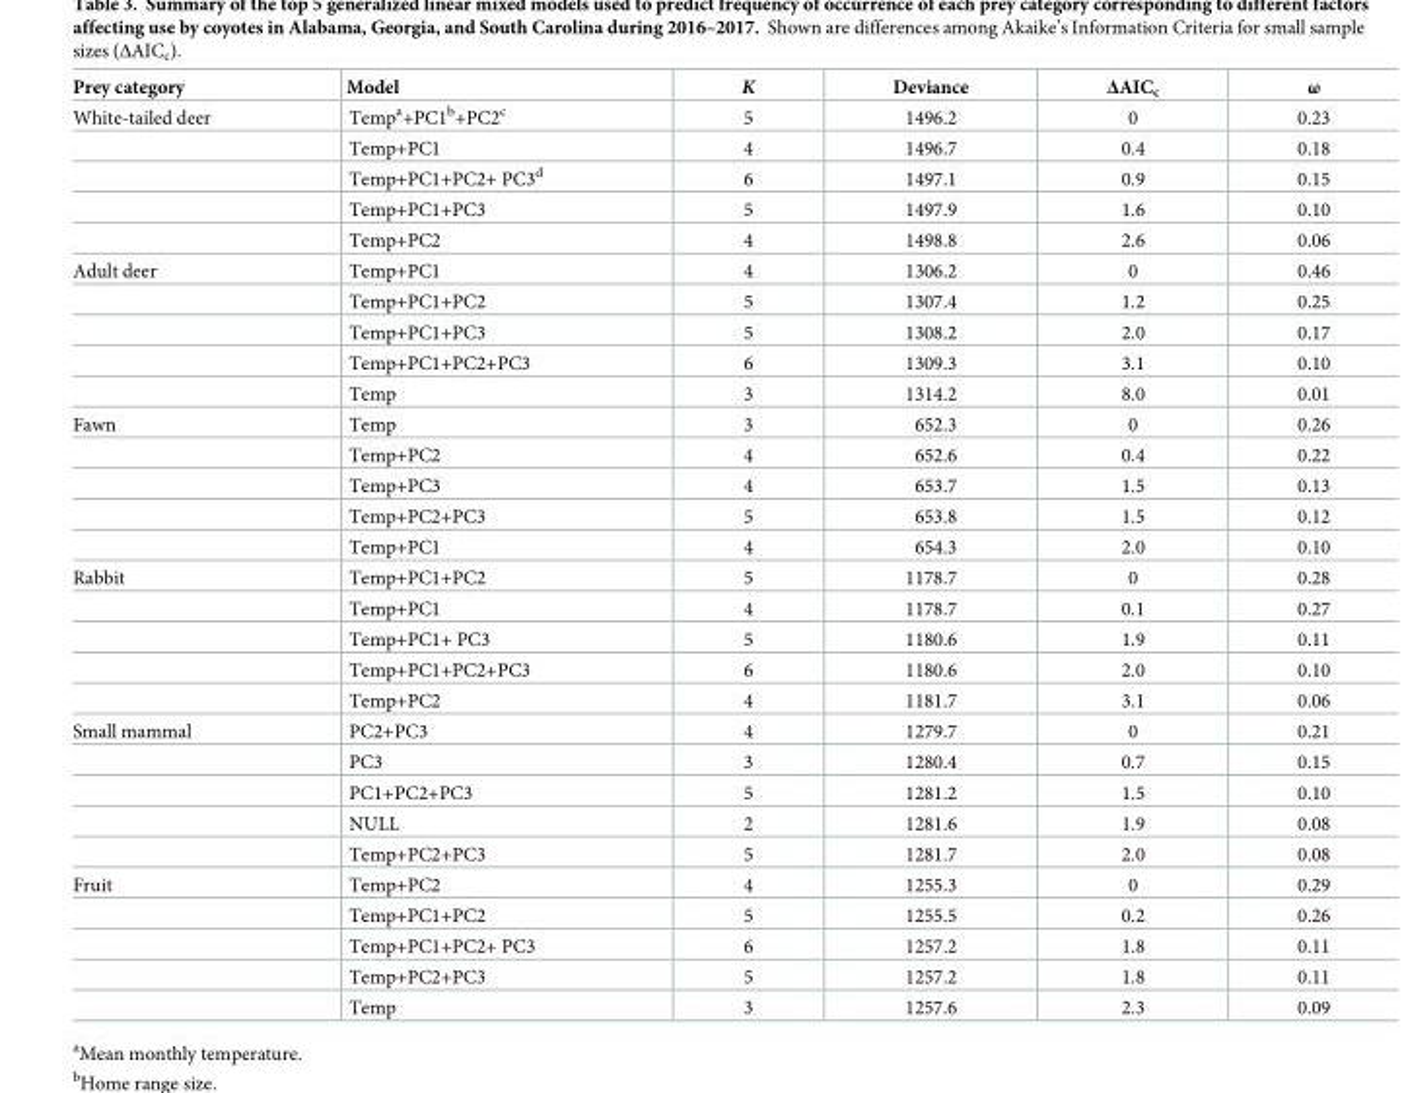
<table><thead><tr><td>Prey category</td><td>Model</td><td>K</td><td>Deviance</td><td>ΔAIC<sub>c</sub></td><td>ω</td></tr></thead><tbody><tr><td rowspan="5">White-tailed deer</td><td>Temp<sup>a</sup>+PC1<sup>b</sup>+PC2<sup>c</sup></td><td>5</td><td>1496.2</td><td>0</td><td>0.23</td></tr><tr><td>Temp+PC1</td><td>4</td><td>1496.7</td><td>0.4</td><td>0.18</td></tr><tr><td>Temp+PC1+PC2+ PC3<sup>d</sup></td><td>6</td><td>1497.1</td><td>0.9</td><td>0.15</td></tr><tr><td>Temp+PC1+PC3</td><td>5</td><td>1497.9</td><td>1.6</td><td>0.10</td></tr><tr><td>Temp+PC2</td><td>4</td><td>1498.8</td><td>2.6</td><td>0.06</td></tr><tr><td rowspan="5">Adult deer</td><td>Temp+PC1</td><td>4</td><td>1306.2</td><td>0</td><td>0.46</td></tr><tr><td>Temp+PC1+PC2</td><td>5</td><td>1307.4</td><td>1.2</td><td>0.25</td></tr><tr><td>Temp+PC1+PC3</td><td>5</td><td>1308.2</td><td>2.0</td><td>0.17</td></tr><tr><td>Temp+PC1+PC2+PC3</td><td>6</td><td>1309.3</td><td>3.1</td><td>0.10</td></tr><tr><td>Temp</td><td>3</td><td>1314.2</td><td>8.0</td><td>0.01</td></tr><tr><td rowspan="5">Fawn</td><td>Temp</td><td>3</td><td>652.3</td><td>0</td><td>0.26</td></tr><tr><td>Temp+PC2</td><td>4</td><td>652.6</td><td>0.4</td><td>0.22</td></tr><tr><td>Temp+PC3</td><td>4</td><td>653.7</td><td>1.5</td><td>0.13</td></tr><tr><td>Temp+PC2+PC3</td><td>5</td><td>653.8</td><td>1.5</td><td>0.12</td></tr><tr><td>Temp+PC1</td><td>4</td><td>654.3</td><td>2.0</td><td>0.10</td></tr><tr><td rowspan="5">Rabbit</td><td>Temp+PC1+PC2</td><td>5</td><td>1178.7</td><td>0</td><td>0.28</td></tr><tr><td>Temp+PC1</td><td>4</td><td>1178.7</td><td>0.1</td><td>0.27</td></tr><tr><td>Temp+PC1+ PC3</td><td>5</td><td>1180.6</td><td>1.9</td><td>0.11</td></tr><tr><td>Temp+PC1+PC2+PC3</td><td>6</td><td>1180.6</td><td>2.0</td><td>0.10</td></tr><tr><td>Temp+PC2</td><td>4</td><td>1181.7</td><td>3.1</td><td>0.06</td></tr><tr><td rowspan="5">Small mammal</td><td>PC2+PC3</td><td>4</td><td>1279.7</td><td>0</td><td>0.21</td></tr><tr><td>PC3</td><td>3</td><td>1280.4</td><td>0.7</td><td>0.15</td></tr><tr><td>PC1+PC2+PC3</td><td>5</td><td>1281.2</td><td>1.5</td><td>0.10</td></tr><tr><td>NULL</td><td>2</td><td>1281.6</td><td>1.9</td><td>0.08</td></tr><tr><td>Temp+PC2+PC3</td><td>5</td><td>1281.7</td><td>2.0</td><td>0.08</td></tr><tr><td rowspan="5">Fruit</td><td>Temp+PC2</td><td>4</td><td>1255.3</td><td>0</td><td>0.29</td></tr><tr><td>Temp+PC1+PC2</td><td>5</td><td>1255.5</td><td>0.2</td><td>0.26</td></tr><tr><td>Temp+PC1+PC2+ PC3</td><td>6</td><td>1257.2</td><td>1.8</td><td>0.11</td></tr><tr><td>Temp+PC2+PC3</td><td>5</td><td>1257.2</td><td>1.8</td><td>0.11</td></tr><tr><td>Temp</td><td>3</td><td>1257.6</td><td>2.3</td><td>0.09</td></tr></tbody></table>